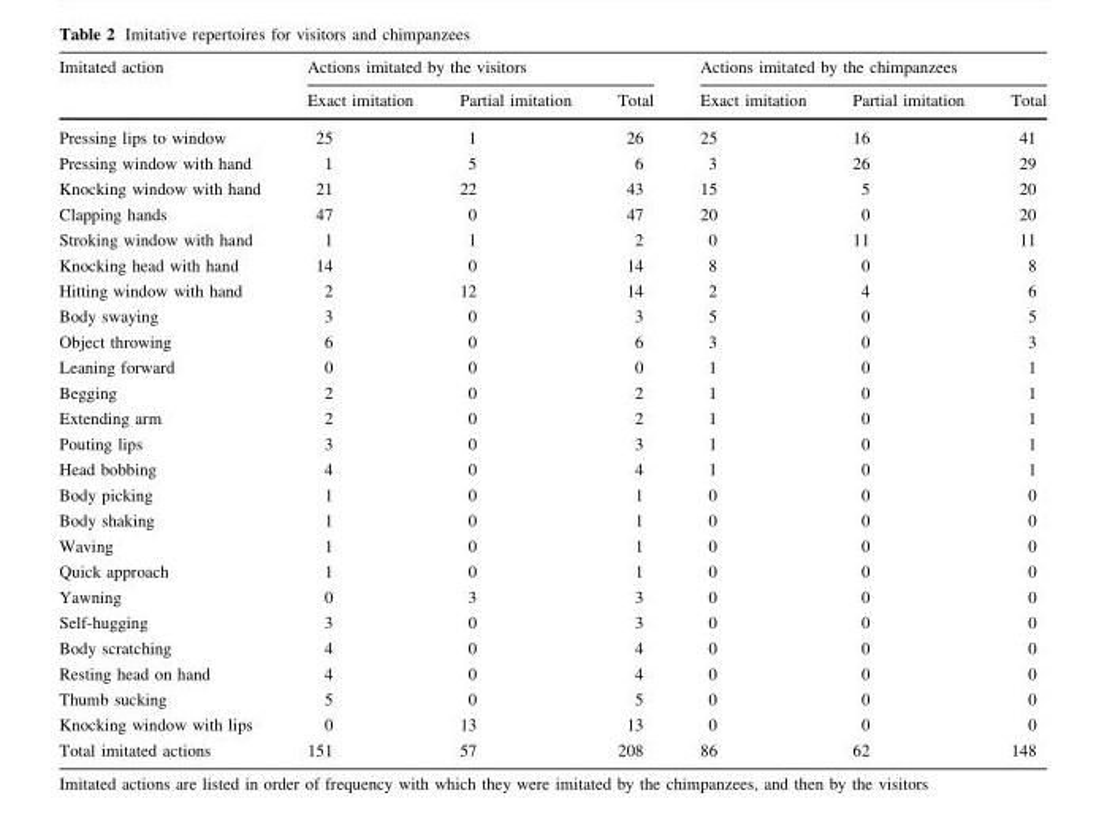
<table><thead><tr><td rowspan="2">Imitated action</td><td colspan="3">Actions imitated by the visitors</td><td colspan="3">Actions imitated by the chimpanzees</td></tr><tr><td>Exact imitation</td><td>Partial imitation</td><td>Total</td><td>Exact imitation</td><td>Partial imitation</td><td>Total</td></tr></thead><tbody><tr><td>Pressing lips to window</td><td>25</td><td>1</td><td>26</td><td>25</td><td>16</td><td>41</td></tr><tr><td>Pressing window with hand</td><td>1</td><td>5</td><td>6</td><td>3</td><td>26</td><td>29</td></tr><tr><td>Knocking window with hand</td><td>21</td><td>22</td><td>43</td><td>15</td><td>5</td><td>20</td></tr><tr><td>Clapping hands</td><td>47</td><td>0</td><td>47</td><td>20</td><td>0</td><td>20</td></tr><tr><td>Stroking window with hand</td><td>1</td><td>1</td><td>2</td><td>0</td><td>11</td><td>11</td></tr><tr><td>Knocking head with hand</td><td>14</td><td>0</td><td>14</td><td>8</td><td>0</td><td>8</td></tr><tr><td>Hitting window with hand</td><td>2</td><td>12</td><td>14</td><td>2</td><td>4</td><td>6</td></tr><tr><td>Body swaying</td><td>3</td><td>0</td><td>3</td><td>5</td><td>0</td><td>5</td></tr><tr><td>Object throwing</td><td>6</td><td>0</td><td>6</td><td>3</td><td>0</td><td>3</td></tr><tr><td>Leaning forward</td><td>0</td><td>0</td><td>0</td><td>1</td><td>0</td><td>1</td></tr><tr><td>Begging</td><td>2</td><td>0</td><td>2</td><td>1</td><td>0</td><td>1</td></tr><tr><td>Extending arm</td><td>2</td><td>0</td><td>2</td><td>1</td><td>0</td><td>1</td></tr><tr><td>Pouting lips</td><td>3</td><td>0</td><td>3</td><td>1</td><td>0</td><td>1</td></tr><tr><td>Head bobbing</td><td>4</td><td>0</td><td>4</td><td>1</td><td>0</td><td>1</td></tr><tr><td>Body picking</td><td>1</td><td>0</td><td>1</td><td>0</td><td>0</td><td>0</td></tr><tr><td>Body shaking</td><td>1</td><td>0</td><td>1</td><td>0</td><td>0</td><td>0</td></tr><tr><td>Waving</td><td>1</td><td>0</td><td>1</td><td>0</td><td>0</td><td>0</td></tr><tr><td>Quick approach</td><td>1</td><td>0</td><td>1</td><td>0</td><td>0</td><td>0</td></tr><tr><td>Yawning</td><td>0</td><td>3</td><td>3</td><td>0</td><td>0</td><td>0</td></tr><tr><td>Self-hugging</td><td>3</td><td>0</td><td>3</td><td>0</td><td>0</td><td>0</td></tr><tr><td>Body scratching</td><td>4</td><td>0</td><td>4</td><td>0</td><td>0</td><td>0</td></tr><tr><td>Resting head on hand</td><td>4</td><td>0</td><td>4</td><td>0</td><td>0</td><td>0</td></tr><tr><td>Thumb sucking</td><td>5</td><td>0</td><td>5</td><td>0</td><td>0</td><td>0</td></tr><tr><td>Knocking window with lips</td><td>0</td><td>13</td><td>13</td><td>0</td><td>0</td><td>0</td></tr><tr><td>Total imitated actions</td><td>151</td><td>57</td><td>208</td><td>86</td><td>62</td><td>148</td></tr></tbody></table>